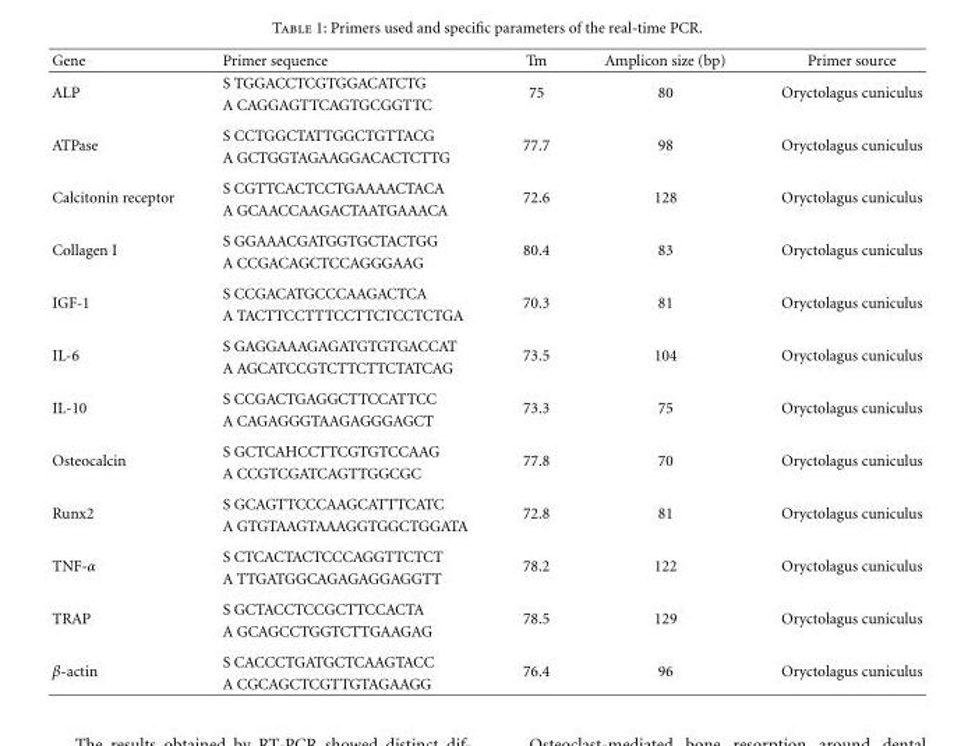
<table><thead><tr><td>Gene</td><td>Primer sequence</td><td>Tm</td><td>Amplicon size (bp)</td><td>Primer source</td></tr></thead><tbody><tr><td rowspan="2">ALP</td><td>S TGGACCTCGTGGACATCTG</td><td rowspan="2">75</td><td rowspan="2">80</td><td rowspan="2">Oryctolagus cuniculus</td></tr><tr><td>A CAGGAGTTCAGTGCGGTTC</td></tr><tr><td rowspan="2">ATPase</td><td>S CCTGGCTATTGGCTGTTACG</td><td rowspan="2">77.7</td><td rowspan="2">98</td><td rowspan="2">Oryctolagus cuniculus</td></tr><tr><td>A GCTGGTAGAAGGACACTCTTG</td></tr><tr><td rowspan="2">Calcitonin receptor</td><td>S CGTTCACTCCTGAAAACTACA</td><td rowspan="2">72.6</td><td rowspan="2">128</td><td rowspan="2">Oryctolagus cuniculus</td></tr><tr><td>A GCAACCAAGACTAATGAAACA</td></tr><tr><td rowspan="2">Collagen I</td><td>S GGAAACGATGGTGCTACTGG</td><td rowspan="2">80.4</td><td rowspan="2">83</td><td rowspan="2">Oryctolagus cuniculus</td></tr><tr><td>A CCGACAGCTCCAGGGAAG</td></tr><tr><td rowspan="2">IGF-1</td><td>S CCGACATGCCCAAGACTCA</td><td rowspan="2">70.3</td><td rowspan="2">81</td><td rowspan="2">Oryctolagus cuniculus</td></tr><tr><td>A TACTTCCTTTCCTTCTCCTCTGA</td></tr><tr><td rowspan="2">IL-6</td><td>S GAGGAAAGAGATGTGTGACCAT</td><td rowspan="2">73.5</td><td rowspan="2">104</td><td rowspan="2">Oryctolagus cuniculus</td></tr><tr><td>A AGCATCCGTCTTCTTCTATCAG</td></tr><tr><td rowspan="2">IL-10</td><td>S CCGACTGAGGCTTCCATTCC</td><td rowspan="2">73.3</td><td rowspan="2">75</td><td rowspan="2">Oryctolagus cuniculus</td></tr><tr><td>A CAGAGGGTAAGAGGGAGCT</td></tr><tr><td rowspan="2">Osteocalcin</td><td>S GCTCAHCCTTCGTGTCCAAG</td><td rowspan="2">77.8</td><td rowspan="2">70</td><td rowspan="2">Oryctolagus cuniculus</td></tr><tr><td>A CCGTCGATCAGTTGGCGC</td></tr><tr><td rowspan="2">Runx2</td><td>S GCAGTTCCCAAGCATTTCATC</td><td rowspan="2">72.8</td><td rowspan="2">81</td><td rowspan="2">Oryctolagus cuniculus</td></tr><tr><td>A GTGTAAGTAAAGGTGGCTGGATA</td></tr><tr><td rowspan="2">TNF-α</td><td>S CTCACTACTCCCAGGTTCTCT</td><td rowspan="2">78.2</td><td rowspan="2">122</td><td rowspan="2">Oryctolagus cuniculus</td></tr><tr><td>A TTGATGGCAGAGAGGAGGTT</td></tr><tr><td rowspan="2">TRAP</td><td>S GCTACCTCCGCTTCCACTA</td><td rowspan="2">78.5</td><td rowspan="2">129</td><td rowspan="2">Oryctolagus cuniculus</td></tr><tr><td>A GCAGCCTGGTCTTGAAGAG</td></tr><tr><td rowspan="2">β-actin</td><td>S CACCCTGATGCTCAAGTACC</td><td rowspan="2">76.4</td><td rowspan="2">96</td><td rowspan="2">Oryctolagus cuniculus</td></tr><tr><td>A CGCAGCTCGTTGTAGAAGG</td></tr></tbody></table>